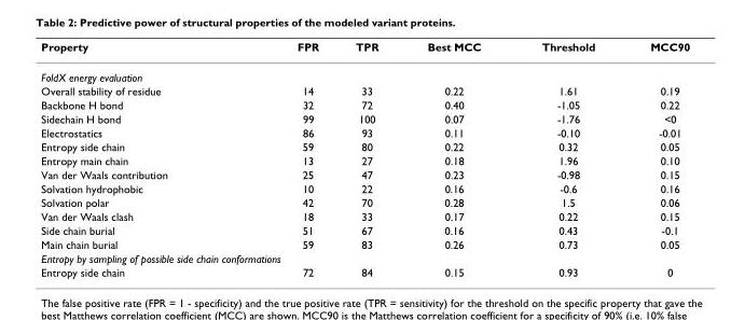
<table><thead><tr><td>Property</td><td>FPR</td><td>TPR</td><td>Best MCC</td><td>Threshold</td><td>MCC90</td></tr></thead><tbody><tr><td colspan="6">FoldX energy evaluation</td></tr><tr><td>Overall stability of residue</td><td>14</td><td>33</td><td>0.22</td><td>1.61</td><td>0.19</td></tr><tr><td>Backbone H bond</td><td>32</td><td>72</td><td>0.40</td><td>-1.05</td><td>0.22</td></tr><tr><td>Sidechain H bond</td><td>99</td><td>100</td><td>0.07</td><td>-1.76</td><td>&lt;0</td></tr><tr><td>Electrostatics</td><td>86</td><td>93</td><td>0.11</td><td>-0.10</td><td>-0.01</td></tr><tr><td>Entropy side chain</td><td>59</td><td>80</td><td>0.22</td><td>0.32</td><td>0.05</td></tr><tr><td>Entropy main chain</td><td>13</td><td>27</td><td>0.18</td><td>1.96</td><td>0.10</td></tr><tr><td>Van der Waals contribution</td><td>25</td><td>47</td><td>0.23</td><td>-0.98</td><td>0.15</td></tr><tr><td>Solvation hydrophobic</td><td>10</td><td>22</td><td>0.16</td><td>-0.6</td><td>0.16</td></tr><tr><td>Solvation polar</td><td>42</td><td>70</td><td>0.28</td><td>1.5</td><td>0.06</td></tr><tr><td>Van der Waals clash</td><td>18</td><td>33</td><td>0.17</td><td>0.22</td><td>0.15</td></tr><tr><td>Side chain burial</td><td>51</td><td>67</td><td>0.16</td><td>0.43</td><td>-0.1</td></tr><tr><td>Main chain burial</td><td>59</td><td>83</td><td>0.26</td><td>0.73</td><td>0.05</td></tr><tr><td colspan="6">Entropy by sampling of possible side chain conformations</td></tr><tr><td>Entropy side chain</td><td>72</td><td>84</td><td>0.15</td><td>0.93</td><td>0</td></tr></tbody></table>